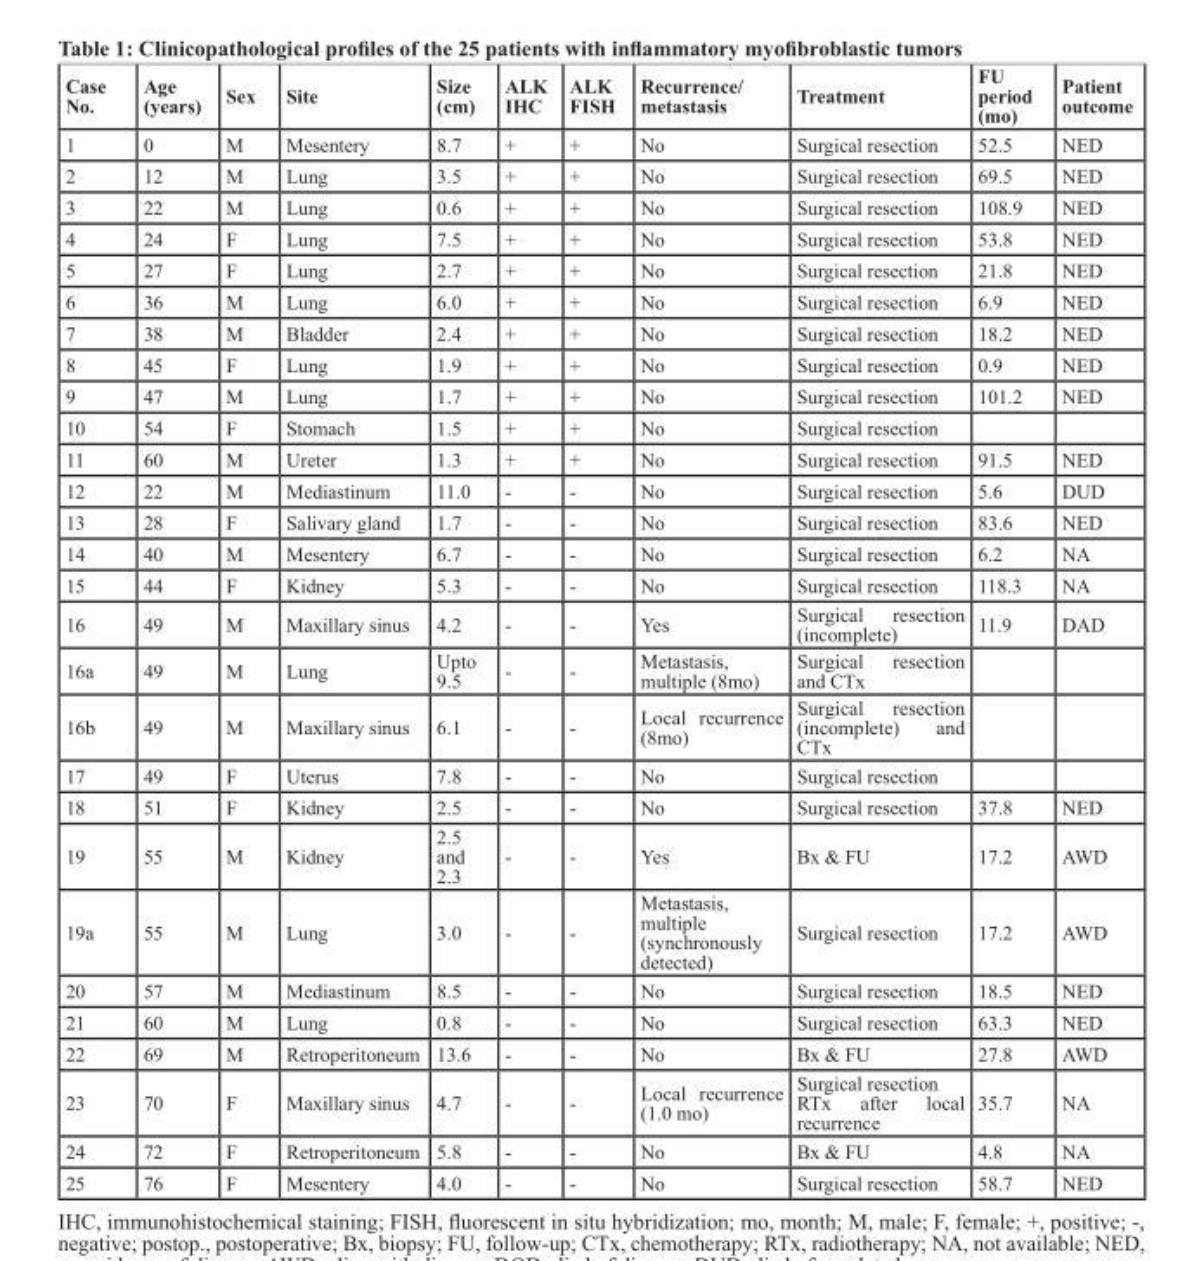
<table><thead><tr><td>Case No.</td><td>Age (years)</td><td>Sex</td><td>Site</td><td>Size (cm)</td><td>ALK IHC</td><td>ALK FISH</td><td>Recurrence/ metastasis</td><td>Treatment</td><td>FU period (mo)</td><td>Patient outcome</td></tr></thead><tbody><tr><td>1</td><td>0</td><td>M</td><td>Mesentery</td><td>8.7</td><td>+</td><td>+</td><td>No</td><td>Surgical resection</td><td>52.5</td><td>NED</td></tr><tr><td>2</td><td>12</td><td>M</td><td>Lung</td><td>3.5</td><td>+</td><td>+</td><td>No</td><td>Surgical resection</td><td>69.5</td><td>NED</td></tr><tr><td>3</td><td>22</td><td>M</td><td>Lung</td><td>0.6</td><td>+</td><td>+</td><td>No</td><td>Surgical resection</td><td>108.9</td><td>NED</td></tr><tr><td>4</td><td>24</td><td>F</td><td>Lung</td><td>7.5</td><td>+</td><td>+</td><td>No</td><td>Surgical resection</td><td>53.8</td><td>NED</td></tr><tr><td>5</td><td>27</td><td>F</td><td>Lung</td><td>2.7</td><td>+</td><td>+</td><td>No</td><td>Surgical resection</td><td>21.8</td><td>NED</td></tr><tr><td>6</td><td>36</td><td>M</td><td>Lung</td><td>6.0</td><td>+</td><td>+</td><td>No</td><td>Surgical resection</td><td>6.9</td><td>NED</td></tr><tr><td>7</td><td>38</td><td>M</td><td>Bladder</td><td>2.4</td><td>+</td><td>+</td><td>No</td><td>Surgical resection</td><td>18.2</td><td>NED</td></tr><tr><td>8</td><td>45</td><td>F</td><td>Lung</td><td>1.9</td><td>+</td><td>+</td><td>No</td><td>Surgical resection</td><td>0.9</td><td>NED</td></tr><tr><td>9</td><td>47</td><td>M</td><td>Lung</td><td>1.7</td><td>+</td><td>+</td><td>No</td><td>Surgical resection</td><td>101.2</td><td>NED</td></tr><tr><td>10</td><td>54</td><td>F</td><td>Stomach</td><td>1.5</td><td>+</td><td>+</td><td>No</td><td>Surgical resection</td><td></td><td></td></tr><tr><td>11</td><td>60</td><td>M</td><td>Ureter</td><td>1.3</td><td>+</td><td>+</td><td>No</td><td>Surgical resection</td><td>91.5</td><td>NED</td></tr><tr><td>12</td><td>22</td><td>M</td><td>Mediastinum</td><td>11.0</td><td>-</td><td>-</td><td>No</td><td>Surgical resection</td><td>5.6</td><td>DUD</td></tr><tr><td>13</td><td>28</td><td>F</td><td>Salivary gland</td><td>1.7</td><td>-</td><td>-</td><td>No</td><td>Surgical resection</td><td>83.6</td><td>NED</td></tr><tr><td>14</td><td>40</td><td>M</td><td>Mesentery</td><td>6.7</td><td>-</td><td>-</td><td>No</td><td>Surgical resection</td><td>6.2</td><td>NA</td></tr><tr><td>15</td><td>44</td><td>F</td><td>Kidney</td><td>5.3</td><td>-</td><td>-</td><td>No</td><td>Surgical resection</td><td>118.3</td><td>NA</td></tr><tr><td>16</td><td>49</td><td>M</td><td>Maxillary sinus</td><td>4.2</td><td>-</td><td>-</td><td>Yes</td><td>Surgical resection (incomplete)</td><td>11.9</td><td>DAD</td></tr><tr><td>16a</td><td>49</td><td>M</td><td>Lung</td><td>Upto 9.5</td><td>-</td><td>-</td><td>Metastasis, multiple (8mo)</td><td>Surgical resection and CTx</td><td></td><td></td></tr><tr><td>16b</td><td>49</td><td>M</td><td>Maxillary sinus</td><td>6.1</td><td>-</td><td>-</td><td>Local recurrence (8mo)</td><td>Surgical resection (incomplete) and CTx</td><td></td><td></td></tr><tr><td>17</td><td>49</td><td>F</td><td>Uterus</td><td>7.8</td><td>-</td><td>-</td><td>No</td><td>Surgical resection</td><td></td><td></td></tr><tr><td>18</td><td>51</td><td>F</td><td>Kidney</td><td>2.5</td><td>-</td><td>-</td><td>No</td><td>Surgical resection</td><td>37.8</td><td>NED</td></tr><tr><td>19</td><td>55</td><td>M</td><td>Kidney</td><td>2.5 and 2.3</td><td>-</td><td>-</td><td>Yes</td><td>Bx &amp; FU</td><td>17.2</td><td>AWD</td></tr><tr><td>19a</td><td>55</td><td>M</td><td>Lung</td><td>3.0</td><td>-</td><td>-</td><td>Metastasis, multiple (synchronously detected)</td><td>Surgical resection</td><td>17.2</td><td>AWD</td></tr><tr><td>20</td><td>57</td><td>M</td><td>Mediastinum</td><td>8.5</td><td>-</td><td>-</td><td>No</td><td>Surgical resection</td><td>18.5</td><td>NED</td></tr><tr><td>21</td><td>60</td><td>M</td><td>Lung</td><td>0.8</td><td>-</td><td>-</td><td>No</td><td>Surgical resection</td><td>63.3</td><td>NED</td></tr><tr><td>22</td><td>69</td><td>M</td><td>Retroperitoneum</td><td>13.6</td><td>-</td><td>-</td><td>No</td><td>Bx &amp; FU</td><td>27.8</td><td>AWD</td></tr><tr><td>23</td><td>70</td><td>F</td><td>Maxillary sinus</td><td>4.7</td><td>-</td><td>-</td><td>Local recurrence (1.0 mo)</td><td>Surgical resection RTx after local recurrence</td><td>35.7</td><td>NA</td></tr><tr><td>24</td><td>72</td><td>F</td><td>Retroperitoneum</td><td>5.8</td><td>-</td><td>-</td><td>No</td><td>Bx &amp; FU</td><td>4.8</td><td>NA</td></tr><tr><td>25</td><td>76</td><td>F</td><td>Mesentery</td><td>4.0</td><td>-</td><td>-</td><td>No</td><td>Surgical resection</td><td>58.7</td><td>NED</td></tr></tbody></table>